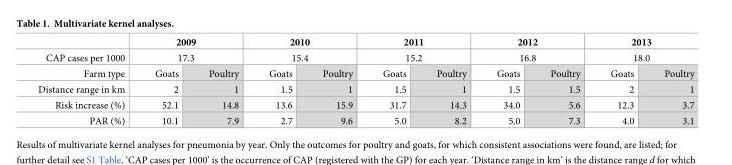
<table><thead><tr><td rowspan="3">CAP cases per 1000 Farm type</td><td rowspan="2" colspan="2">2009 17.3</td><td rowspan="2" colspan="2">2010 15.4</td><td rowspan="2" colspan="2">2011 15.2</td><td rowspan="2" colspan="2">2012 16.8</td><td rowspan="2" colspan="2">2013 18.0</td></tr><tr></tr><tr><td>Goats</td><td>Poultry</td><td>Goats</td><td>Poultry</td><td>Goats</td><td>Poultry</td><td>Goats</td><td>Poultry</td><td>Goats</td><td>Poultry</td></tr></thead><tbody><tr><td>Distance range in km</td><td>2</td><td>1</td><td>1.5</td><td>1</td><td>1.5</td><td>1</td><td>1.5</td><td>1.5</td><td>2</td><td>1</td></tr><tr><td>Risk increase (%)</td><td>52.1</td><td>14.8</td><td>13.6</td><td>15.9</td><td>31.7</td><td>14.3</td><td>34.0</td><td>5.6</td><td>12.3</td><td>3.7</td></tr><tr><td>PAR (%)</td><td>10.1</td><td>7.9</td><td>2.7</td><td>9.6</td><td>5.0</td><td>8.2</td><td>5.0</td><td>7.3</td><td>4.0</td><td>3.1</td></tr></tbody></table>